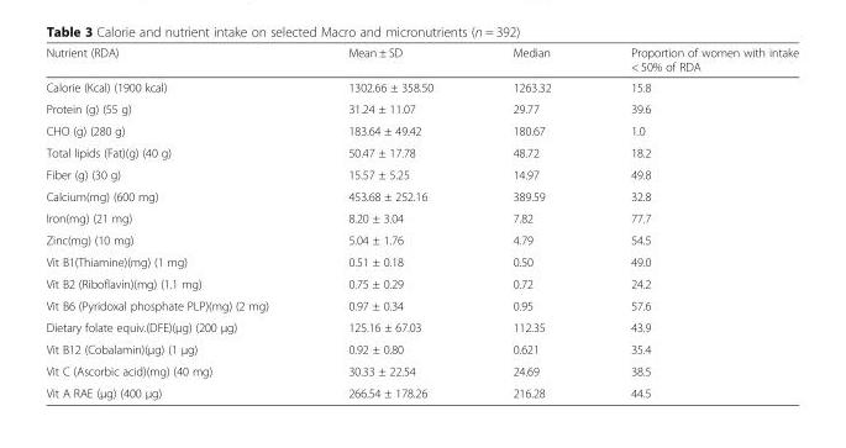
<table><thead><tr><td>Nutrient (RDA)</td><td>Mean ± SD</td><td>Median</td><td>Proportion of women with intake &lt; 50% of RDA</td></tr></thead><tbody><tr><td>Calorie (Kcal) (1900 kcal)</td><td>1302.66 ± 358.50</td><td>1263.32</td><td>15.8</td></tr><tr><td>Protein (g) (55 g)</td><td>31.24 ± 11.07</td><td>29.77</td><td>39.6</td></tr><tr><td>CHO (g) (280 g)</td><td>183.64 ± 49.42</td><td>180.67</td><td>1.0</td></tr><tr><td>Total lipids (Fat)(g) (40 g)</td><td>50.47 ± 17.78</td><td>48.72</td><td>18.2</td></tr><tr><td>Fiber (g) (30 g)</td><td>15.57 ± 5.25</td><td>14.97</td><td>49.8</td></tr><tr><td>Calcium(mg) (600 mg)</td><td>453.68 ± 252.16</td><td>389.59</td><td>32.8</td></tr><tr><td>Iron(mg) (21 mg)</td><td>8.20 ± 3.04</td><td>7.82</td><td>77.7</td></tr><tr><td>Zinc(mg) (10 mg)</td><td>5.04 ± 1.76</td><td>4.79</td><td>54.5</td></tr><tr><td>Vit B1(Thiamine)(mg) (1 mg)</td><td>0.51 ± 0.18</td><td>0.50</td><td>49.0</td></tr><tr><td>Vit B2 (Riboflavin)(mg) (1.1 mg)</td><td>0.75 ± 0.29</td><td>0.72</td><td>24.2</td></tr><tr><td>Vit B6 (Pyridoxal phosphate PLP)(mg) (2 mg)</td><td>0.97 ± 0.34</td><td>0.95</td><td>57.6</td></tr><tr><td>Dietary folate equiv.(DFE)(μg) (200 μg)</td><td>125.16 ± 67.03</td><td>112.35</td><td>43.9</td></tr><tr><td>Vit B12 (Cobalamin)(μg) (1 μg)</td><td>0.92 ± 0.80</td><td>0.621</td><td>35.4</td></tr><tr><td>Vit C (Ascorbic acid)(mg) (40 mg)</td><td>30.33 ± 22.54</td><td>24.69</td><td>38.5</td></tr><tr><td>Vit A RAE (μg) (400 μg)</td><td>266.54 ± 178.26</td><td>216.28</td><td>44.5</td></tr></tbody></table>